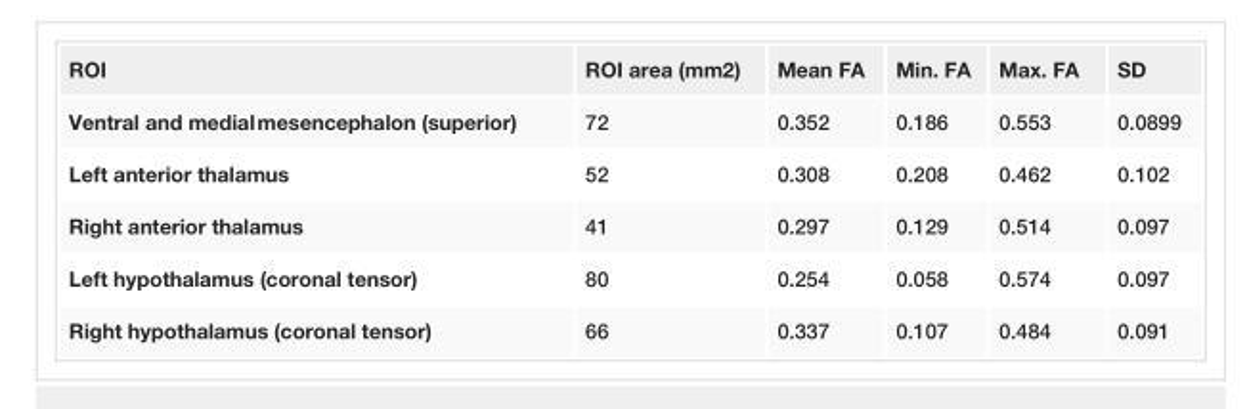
<table><tbody><tr><td>ROI</td><td>ROI area (mm2)</td><td>Mean FA</td><td>Min. FA</td><td>Max. FA</td><td>SD</td></tr><tr><td>Ventral and medial mesencephalon (superior)</td><td>72</td><td>0.352</td><td>0.186</td><td>0.553</td><td>0.0899</td></tr><tr><td>Left anterior thalamus</td><td>52</td><td>0.308</td><td>0.208</td><td>0.462</td><td>0.102</td></tr><tr><td>Right anterior thalamus</td><td>41</td><td>0.297</td><td>0.129</td><td>0.514</td><td>0.097</td></tr><tr><td>Left hypothalamus (coronal tensor)</td><td>80</td><td>0.254</td><td>0.058</td><td>0.574</td><td>0.097</td></tr><tr><td>Right hypothalamus (coronal tensor)</td><td>66</td><td>0.337</td><td>0.107</td><td>0.484</td><td>0.091</td></tr></tbody></table>